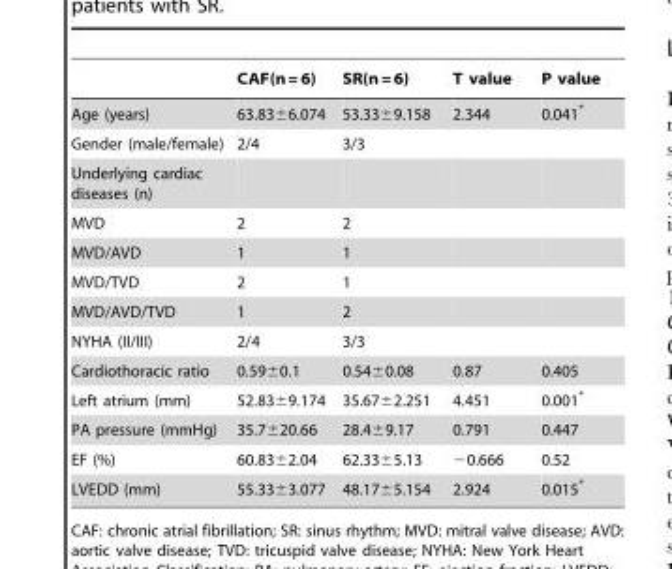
<table><thead><tr><td></td><td>CAF(n = 6)</td><td>SR(n = 6)</td><td>T value</td><td>P value</td></tr></thead><tbody><tr><td>Age (years)</td><td>63.83±6.074</td><td>53.33±9.158</td><td>2.344</td><td>0.041*</td></tr><tr><td>Gender (male/female)</td><td>2/4</td><td>3/3</td><td></td><td></td></tr><tr><td colspan="5">Underlying cardiac diseases (n)</td></tr><tr><td>MVD</td><td>2</td><td>2</td><td></td><td></td></tr><tr><td>MVD/AVD</td><td>1</td><td>1</td><td></td><td></td></tr><tr><td>MVD/TVD</td><td>2</td><td>1</td><td></td><td></td></tr><tr><td>MVD/AVD/TVD</td><td>1</td><td>2</td><td></td><td></td></tr><tr><td>NYHA (II/III)</td><td>2/4</td><td>3/3</td><td></td><td></td></tr><tr><td>Cardiothoracic ratio</td><td>0.59±0.1</td><td>0.54±0.08</td><td>0.87</td><td>0.405</td></tr><tr><td>Left atrium (mm)</td><td>52.83±9.174</td><td>35.67±2.251</td><td>4.451</td><td>0.001*</td></tr><tr><td>PA pressure (mmHg)</td><td>35.7±20.66</td><td>28.4±9.17</td><td>0.791</td><td>0.447</td></tr><tr><td>EF (%)</td><td>60.83±2.04</td><td>62.33±5.13</td><td>−0.666</td><td>0.52</td></tr><tr><td>LVEDD (mm)</td><td>55.33±3.077</td><td>48.17±5.154</td><td>2.924</td><td>0.015*</td></tr></tbody></table>